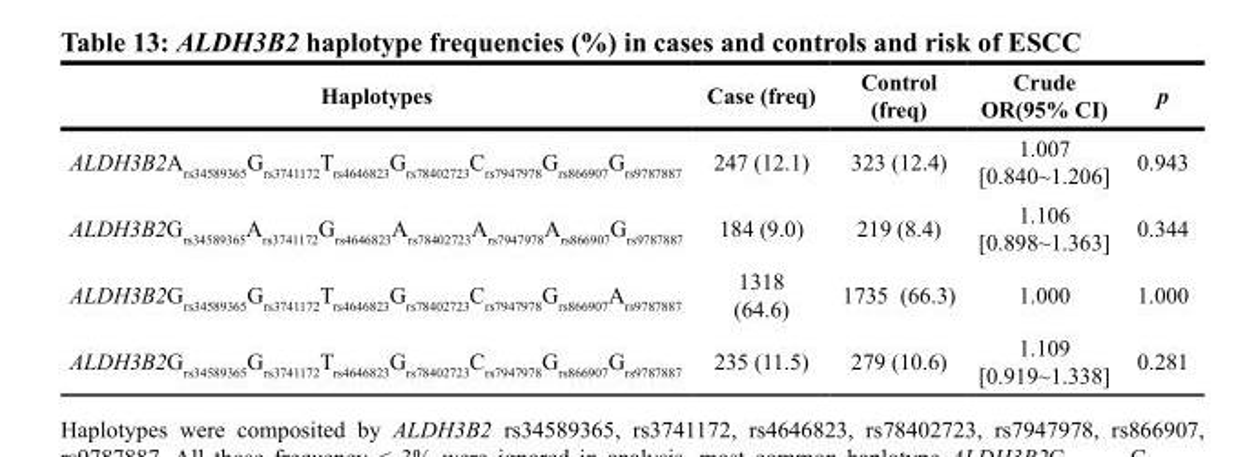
<table><thead><tr><td>Haplotypes</td><td>Case (freq)</td><td>Control (freq)</td><td>Crude OR(95% CI)</td><td>p</td></tr></thead><tbody><tr><td>ALDH3B2A<sub>rs34589365</sub>G<sub>rs3741172</sub>T<sub>rs4646823</sub>G<sub>rs78402723</sub>C<sub>rs7947978</sub>G<sub>rs866907</sub>G<sub>rs9787887</sub></td><td>247 (12.1)</td><td>323 (12.4)</td><td>1.007 [0.840~1.206]</td><td>0.943</td></tr><tr><td>ALDH3B2G<sub>rs34589365</sub>A<sub>rs3741172</sub>G<sub>rs4646823</sub>A<sub>rs78402723</sub>A<sub>rs7947978</sub>A<sub>rs866907</sub>G<sub>rs9787887</sub></td><td>184 (9.0)</td><td>219 (8.4)</td><td>1.106 [0.898~1.363]</td><td>0.344</td></tr><tr><td>ALDH3B2G<sub>rs34589365</sub>G<sub>rs3741172</sub>T<sub>rs4646823</sub>G<sub>rs78402723</sub>C<sub>rs7947978</sub>G<sub>rs866907</sub>A<sub>rs9787887</sub></td><td>1318 (64.6)</td><td>1735 (66.3)</td><td>1.000</td><td>1.000</td></tr><tr><td>ALDH3B2G<sub>rs34589365</sub>G<sub>rs3741172</sub>T<sub>rs4646823</sub>G<sub>rs78402723</sub>C<sub>rs7947978</sub>G<sub>rs866907</sub>G<sub>rs9787887</sub></td><td>235 (11.5)</td><td>279 (10.6)</td><td>1.109 [0.919~1.338]</td><td>0.281</td></tr></tbody></table>